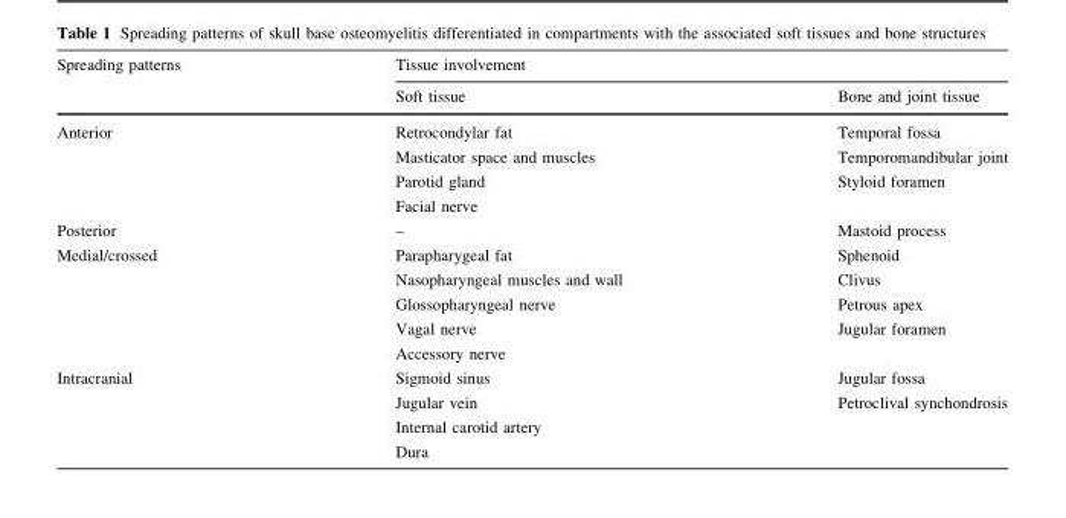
<table><thead><tr><td rowspan="2">Spreading patterns</td><td colspan="2">Tissue involvement</td></tr><tr><td>Soft tissue</td><td>Bone and joint tissue</td></tr></thead><tbody><tr><td>Anterior</td><td>Retrocondylar fat Masticator space and muscles Parotid gland Facial nerve</td><td>Temporal fossa Temporomandibular joint Styloid foramen</td></tr><tr><td>Posterior</td><td>–</td><td>Mastoid process</td></tr><tr><td>Medial/crossed</td><td>Parapharygeal fat Nasopharyngeal muscles and wall Glossopharyngeal nerve Vagal nerve Accessory nerve</td><td>Sphenoid Clivus Petrous apex Jugular foramen</td></tr><tr><td>Intracranial</td><td>Sigmoid sinus Jugular vein Internal carotid artery Dura</td><td>Jugular fossa Petroclival synchondrosis</td></tr></tbody></table>